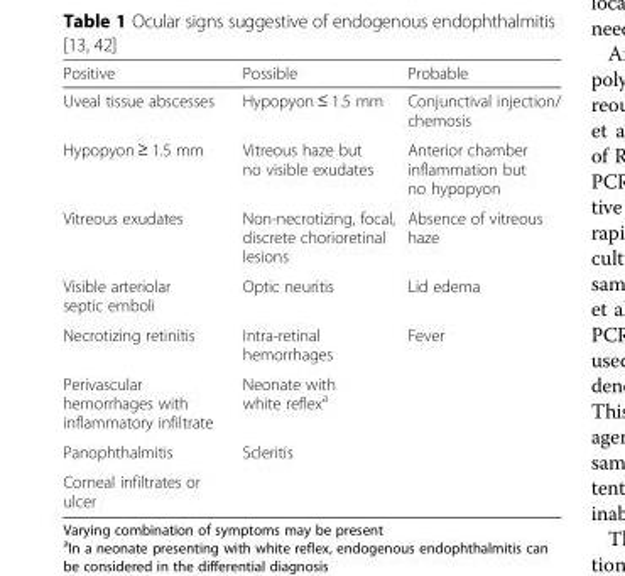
<table><thead><tr><td>Positive</td><td>Possible</td><td>Probable</td></tr></thead><tbody><tr><td>Uveal tissue abscesses</td><td>Hypopyon ≤ 1.5 mm</td><td>Conjunctival injection/ chemosis</td></tr><tr><td>Hypopyon ≥ 1.5 mm</td><td>Vitreous haze but no visible exudates</td><td>Anterior chamber inflammation but no hypopyon</td></tr><tr><td>Vitreous exudates</td><td>Non-necrotizing, focal, discrete chorioretinal lesions</td><td>Absence of vitreous haze</td></tr><tr><td>Visible arteriolar septic emboli</td><td>Optic neuritis</td><td>Lid edema</td></tr><tr><td>Necrotizing retinitis</td><td>Intra-retinal hemorrhages</td><td>Fever</td></tr><tr><td>Perivascular hemorrhages with inflammatory infiltrate</td><td>Neonate with white reflex<sup>a</sup></td><td></td></tr><tr><td>Panophthalmitis</td><td>Scleritis</td><td></td></tr><tr><td>Corneal infiltrates or ulcer</td><td></td><td></td></tr></tbody></table>